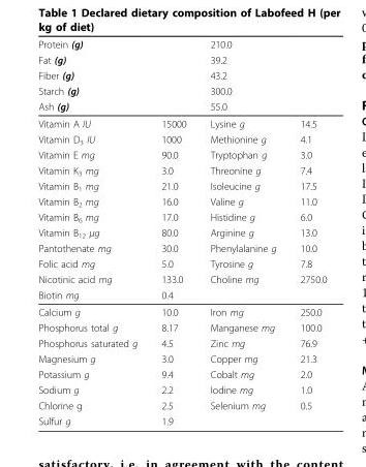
<table><thead><tr><td rowspan="5" colspan="2">Protein (g) Fat (g) Fiber (g) Starch (g) Ash (g)</td><td rowspan="5" colspan="2">210.0 39.2 43.2 300.0 55.0</td></tr><tr></tr><tr></tr><tr></tr><tr></tr><tr><td>Vitamin A IU</td><td>15000</td><td>Lysine g</td><td>14.5</td></tr></thead><tbody><tr><td>Vitamin D<sub>3</sub> IU</td><td>1000</td><td>Methionine g</td><td>4.1</td></tr><tr><td>Vitamin E mg</td><td>90.0</td><td>Tryptophan g</td><td>3.0</td></tr><tr><td>Vitamin K<sub>3</sub> mg</td><td>3.0</td><td>Threonine g</td><td>7.4</td></tr><tr><td>Vitamin B<sub>1</sub> mg</td><td>21.0</td><td>Isoleucine g</td><td>17.5</td></tr><tr><td>Vitamin B<sub>2</sub> mg</td><td>16.0</td><td>Valine g</td><td>11.0</td></tr><tr><td>Vitamin B<sub>6</sub> mg</td><td>17.0</td><td>Histidine g</td><td>6.0</td></tr><tr><td>Vitamin B<sub>12</sub> μg</td><td>80.0</td><td>Arginine g</td><td>13.0</td></tr><tr><td>Pantothenate mg</td><td>30.0</td><td>Phenylalanine g</td><td>10.0</td></tr><tr><td>Folic acid mg</td><td>5.0</td><td>Tyrosine g</td><td>7.8</td></tr><tr><td>Nicotinic acid mg</td><td>133.0</td><td>Choline mg</td><td>2750.0</td></tr><tr><td>Biotin mg</td><td>0.4</td><td></td><td></td></tr><tr><td>Calcium g</td><td>10.0</td><td>Iron mg</td><td>250.0</td></tr><tr><td>Phosphorus total g</td><td>8.17</td><td>Manganese mg</td><td>100.0</td></tr><tr><td>Phosphorus saturated g</td><td>4.5</td><td>Zinc mg</td><td>76.9</td></tr><tr><td>Magnesium g</td><td>3.0</td><td>Copper mg</td><td>21.3</td></tr><tr><td>Potassium g</td><td>9.4</td><td>Cobalt mg</td><td>2.0</td></tr><tr><td>Sodium g</td><td>2.2</td><td>Iodine mg</td><td>1.0</td></tr><tr><td>Chlorine g</td><td>2.5</td><td>Selenium mg</td><td>0.5</td></tr><tr><td>Sulfur g</td><td>1.9</td><td colspan="2"></td></tr></tbody></table>